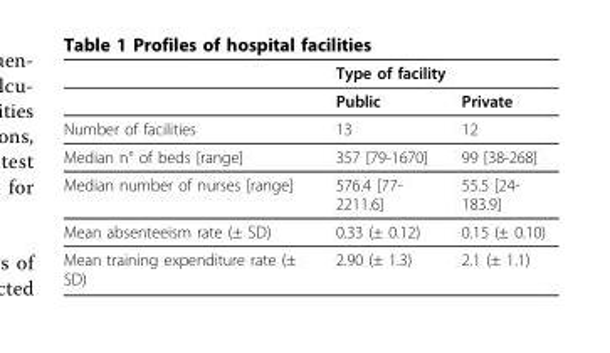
<table><thead><tr><td rowspan="2"></td><td colspan="2">Type of facility</td></tr><tr><td>Public</td><td>Private</td></tr></thead><tbody><tr><td>Number of facilities</td><td>13</td><td>12</td></tr><tr><td>Median n° of beds [range]</td><td>357 [79-1670]</td><td>99 [38-268]</td></tr><tr><td>Median number of nurses [range]</td><td>576.4 [77- 2211.6]</td><td>55.5 [24- 183.9]</td></tr><tr><td>Mean absenteeism rate (± SD)</td><td>0.33 (± 0.12)</td><td>0.15 (± 0.10)</td></tr><tr><td>Mean training expenditure rate (± SD)</td><td>2.90 (± 1.3)</td><td>2.1 (± 1.1)</td></tr></tbody></table>